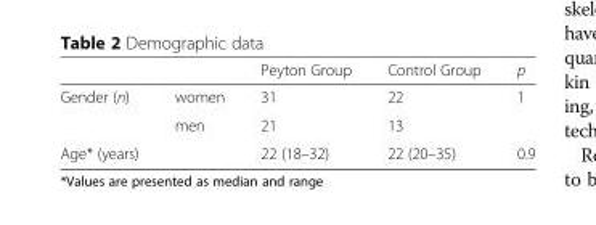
<table><thead><tr><td></td><td></td><td>Peyton Group</td><td>Control Group</td><td>p</td></tr></thead><tbody><tr><td rowspan="2">Gender (n)</td><td>women</td><td>31</td><td>22</td><td>1</td></tr><tr><td>men</td><td>21</td><td>13</td><td></td></tr><tr><td>Age* (years)</td><td></td><td>22 (18–32)</td><td>22 (20–35)</td><td>0.9</td></tr></tbody></table>